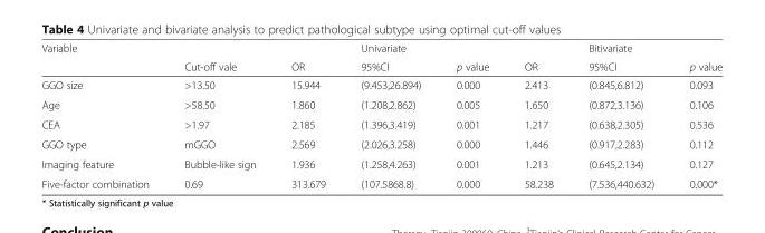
<table><thead><tr><td rowspan="2">Variable</td><td rowspan="2">Cut-off vale</td><td rowspan="2">OR</td><td rowspan="2">Univariate 95%CI</td><td rowspan="2">p value</td><td rowspan="2">OR</td><td rowspan="2">Bitivariate 95%CI</td><td rowspan="2">p value</td></tr><tr></tr></thead><tbody><tr><td>GGO size</td><td>&gt;13.50</td><td>15.944</td><td>(9.453,26.894)</td><td>0.000</td><td>2.413</td><td>(0.845,6.812)</td><td>0.093</td></tr><tr><td>Age</td><td>&gt;58.50</td><td>1.860</td><td>(1.208,2.862)</td><td>0.005</td><td>1.650</td><td>(0.872,3.136)</td><td>0.106</td></tr><tr><td>CEA</td><td>&gt;1.97</td><td>2.185</td><td>(1.396,3.419)</td><td>0.001</td><td>1.217</td><td>(0.638,2.305)</td><td>0.536</td></tr><tr><td>GGO type</td><td>mGGO</td><td>2.569</td><td>(2.026,3.258)</td><td>0.000</td><td>1.446</td><td>(0.917,2.283)</td><td>0.112</td></tr><tr><td>Imaging feature</td><td>Bubble-like sign</td><td>1.936</td><td>(1.258,4.263)</td><td>0.001</td><td>1.213</td><td>(0.645,2.134)</td><td>0.127</td></tr><tr><td>Five-factor combination</td><td>0.69</td><td>313.679</td><td>(107.5868.8)</td><td>0.000</td><td>58.238</td><td>(7.536,440.632)</td><td>0.000*</td></tr></tbody></table>